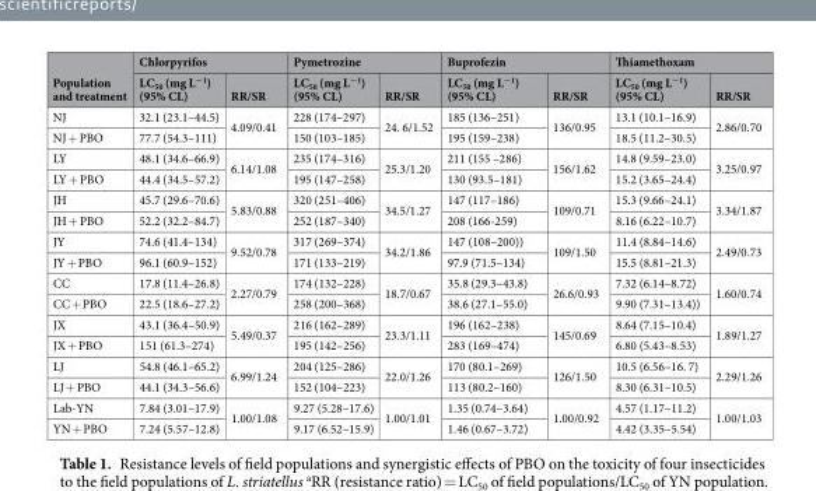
<table><thead><tr><td rowspan="2">Population and treatment</td><td colspan="2">Chlorpyrifos</td><td colspan="2">Pymetrozine</td><td colspan="2">Buprofezin</td><td colspan="2">Thiamethoxam</td></tr><tr><td>LC<sub>50</sub> (mg L<sup>−1</sup>) (95% CL)</td><td>RR/SR</td><td>LC<sub>50</sub> (mg L<sup>−1</sup>) (95% CL)</td><td>RR/SR</td><td>LC<sub>50</sub> (mg L<sup>−1</sup>) (95% CL)</td><td>RR/SR</td><td>LC<sub>50</sub> (mg L<sup>−1</sup>) (95% CL)</td><td>RR/SR</td></tr></thead><tbody><tr><td>NJ</td><td>32.1 (23.1–44.5)</td><td rowspan="2">4.09/0.41</td><td>228 (174–297)</td><td rowspan="2">24. 6/1.52</td><td>185 (136–251)</td><td rowspan="2">136/0.95</td><td>13.1 (10.1–16.9)</td><td rowspan="2">2.86/0.70</td></tr><tr><td>NJ + PBO</td><td>77.7 (54.3–111)</td><td>150 (103–185)</td><td>195 (159–238)</td><td>18.5 (11.2–30.5)</td></tr><tr><td>LY</td><td>48.1 (34.6–66.9)</td><td rowspan="2">6.14/1.08</td><td>235 (174–316)</td><td rowspan="2">25.3/1.20</td><td>211 (155 –286)</td><td rowspan="2">156/1.62</td><td>14.8 (9.59–23.0)</td><td rowspan="2">3.25/0.97</td></tr><tr><td>LY + PBO</td><td>44.4 (34.5–57.2)</td><td>195 (147–258)</td><td>130 (93.5–181)</td><td>15.2 (3.65–24.4)</td></tr><tr><td>JH</td><td>45.7 (29.6–70.6)</td><td rowspan="2">5.83/0.88</td><td>320 (251–406)</td><td rowspan="2">34.5/1.27</td><td>147 (117–186)</td><td rowspan="2">109/0.71</td><td>15.3 (9.66–24.1)</td><td rowspan="2">3.34/1.87</td></tr><tr><td>JH + PBO</td><td>52.2 (32.2–84.7)</td><td>252 (187–340)</td><td>208 (166-259)</td><td>8.16 (6.22–10.7)</td></tr><tr><td>JY</td><td>74.6 (41.4–134)</td><td rowspan="2">9.52/0.78</td><td>317 (269–374)</td><td rowspan="2">34.2/1.86</td><td>147 (108–200))</td><td rowspan="2">109/1.50</td><td>11.4 (8.84–14.6)</td><td rowspan="2">2.49/0.73</td></tr><tr><td>JY + PBO</td><td>96.1 (60.9–152)</td><td>171 (133–219)</td><td>97.9 (71.5–134)</td><td>15.5 (8.81–21.3)</td></tr><tr><td>CC</td><td>17.8 (11.4–26.8)</td><td rowspan="2">2.27/0.79</td><td>174 (132–228)</td><td rowspan="2">18.7/0.67</td><td>35.8 (29.3–43.8)</td><td rowspan="2">26.6/0.93</td><td>7.32 (6.14–8.72)</td><td rowspan="2">1.60/0.74</td></tr><tr><td>CC + PBO</td><td>22.5 (18.6–27.2)</td><td>258 (200–368)</td><td>38.6 (27.1–55.0)</td><td>9.90 (7.31–13.4))</td></tr><tr><td>JX</td><td>43.1 (36.4–50.9)</td><td rowspan="2">5.49/0.37</td><td>216 (162–289)</td><td rowspan="2">23.3/1.11</td><td>196 (162–238)</td><td rowspan="2">145/0.69</td><td>8.64 (7.15–10.4)</td><td rowspan="2">1.89/1.27</td></tr><tr><td>JX + PBO</td><td>151 (61.3–274)</td><td>195 (142–256)</td><td>283 (169–474)</td><td>6.80 (5.43–8.53)</td></tr><tr><td>LJ</td><td>54.8 (46.1–65.2)</td><td rowspan="2">6.99/1.24</td><td>204 (125–286)</td><td rowspan="2">22.0/1.26</td><td>170 (80.1–269)</td><td rowspan="2">126/1.50</td><td>10.5 (6.56–16. 7)</td><td rowspan="2">2.29/1.26</td></tr><tr><td>LJ + PBO</td><td>44.1 (34.3–56.6)</td><td>152 (104–223)</td><td>113 (80.2–160)</td><td>8.30 (6.31–10.5)</td></tr><tr><td>Lab-YN</td><td>7.84 (3.01–17.9)</td><td rowspan="2">1.00/1.08</td><td>9.27 (5.28–17.6)</td><td rowspan="2">1.00/1.01</td><td>1.35 (0.74–3.64)</td><td rowspan="2">1.00/0.92</td><td>4.57 (1.17–11.2)</td><td rowspan="2">1.00/1.03</td></tr><tr><td>YN + PBO</td><td>7.24 (5.57–12.8)</td><td>9.17 (6.52–15.9)</td><td>1.46 (0.67–3.72)</td><td>4.42 (3.35–5.54)</td></tr></tbody></table>